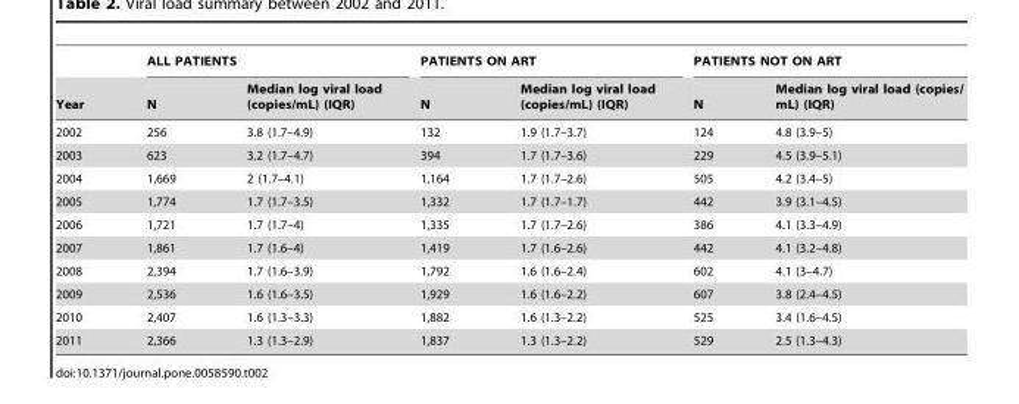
<table><thead><tr><td rowspan="2">Year</td><td colspan="2">ALL PATIENTS</td><td colspan="2">PATIENTS ON ART</td><td colspan="2">PATIENTS NOT ON ART</td></tr><tr><td>N</td><td>Median log viral load (copies/mL) (IQR)</td><td>N</td><td>Median log viral load (copies/mL) (IQR)</td><td>N</td><td>Median log viral load (copies/ mL) (IQR)</td></tr></thead><tbody><tr><td>2002</td><td>256</td><td>3.8 (1.7–4.9)</td><td>132</td><td>1.9 (1.7–3.7)</td><td>124</td><td>4.8 (3.9–5)</td></tr><tr><td>2003</td><td>623</td><td>3.2 (1.7–4.7)</td><td>394</td><td>1.7 (1.7–3.6)</td><td>229</td><td>4.5 (3.9–5.1)</td></tr><tr><td>2004</td><td>1,669</td><td>2 (1.7–4.1)</td><td>1,164</td><td>1.7 (1.7–2.6)</td><td>505</td><td>4.2 (3.4–5)</td></tr><tr><td>2005</td><td>1,774</td><td>1.7 (1.7–3.5)</td><td>1,332</td><td>1.7 (1.7–1.7)</td><td>442</td><td>3.9 (3.1–4.5)</td></tr><tr><td>2006</td><td>1,721</td><td>1.7 (1.7–4)</td><td>1,335</td><td>1.7 (1.7–2.6)</td><td>386</td><td>4.1 (3.3–4.9)</td></tr><tr><td>2007</td><td>1,861</td><td>1.7 (1.6–4)</td><td>1,419</td><td>1.7 (1.6–2.6)</td><td>442</td><td>4.1 (3.2–4.8)</td></tr><tr><td>2008</td><td>2,394</td><td>1.7 (1.6–3.9)</td><td>1,792</td><td>1.6 (1.6–2.4)</td><td>602</td><td>4.1 (3–4.7)</td></tr><tr><td>2009</td><td>2,536</td><td>1.6 (1.6–3.5)</td><td>1,929</td><td>1.6 (1.6–2.2)</td><td>607</td><td>3.8 (2.4–4.5)</td></tr><tr><td>2010</td><td>2,407</td><td>1.6 (1.3–3.3)</td><td>1,882</td><td>1.6 (1.3–2.2)</td><td>525</td><td>3.4 (1.6–4.5)</td></tr><tr><td>2011</td><td>2,366</td><td>1.3 (1.3–2.9)</td><td>1,837</td><td>1.3 (1.3–2.2)</td><td>529</td><td>2.5 (1.3–4.3)</td></tr></tbody></table>